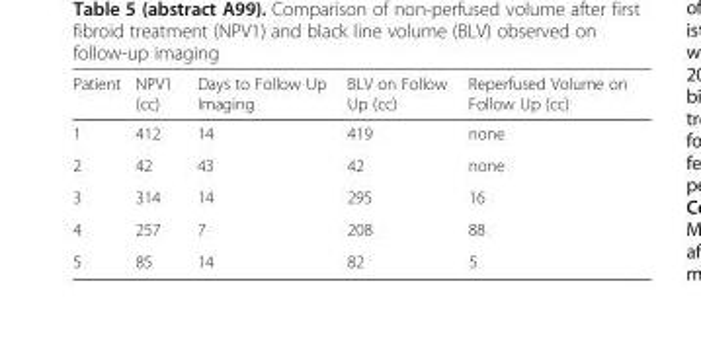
<table><thead><tr><td>Patient</td><td>NPV1 (cc)</td><td>Days to Follow Up Imaging</td><td>BLV on Follow Up (cc)</td><td>Reperfused Volume on Follow Up (cc)</td></tr></thead><tbody><tr><td>1</td><td>412</td><td>14</td><td>419</td><td>none</td></tr><tr><td>2</td><td>42</td><td>43</td><td>42</td><td>none</td></tr><tr><td>3</td><td>314</td><td>14</td><td>295</td><td>16</td></tr><tr><td>4</td><td>257</td><td>7</td><td>208</td><td>88</td></tr><tr><td>5</td><td>85</td><td>14</td><td>82</td><td>5</td></tr></tbody></table>